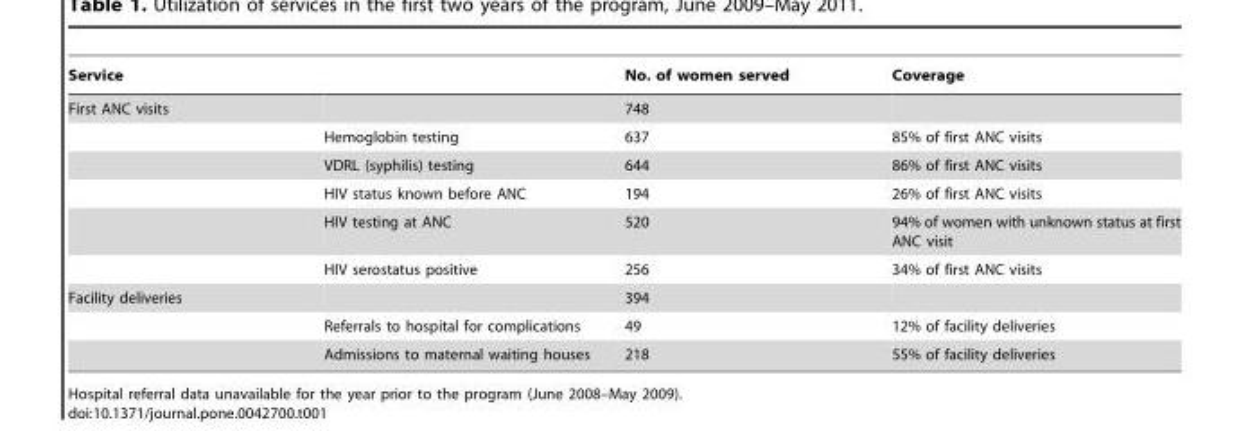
<table><thead><tr><td>Service</td><td></td><td>No. of women served</td><td>Coverage</td></tr></thead><tbody><tr><td rowspan="6">First ANC visits</td><td></td><td>748</td><td></td></tr><tr><td>Hemoglobin testing</td><td>637</td><td>85% of first ANC visits</td></tr><tr><td>VDRL (syphilis) testing</td><td>644</td><td>86% of first ANC visits</td></tr><tr><td>HIV status known before ANC</td><td>194</td><td>26% of first ANC visits</td></tr><tr><td>HIV testing at ANC</td><td>520</td><td>94% of women with unknown status at first ANC visit</td></tr><tr><td>HIV serostatus positive</td><td>256</td><td>34% of first ANC visits</td></tr><tr><td rowspan="3">Facility deliveries</td><td></td><td>394</td><td></td></tr><tr><td>Referrals to hospital for complications</td><td>49</td><td>12% of facility deliveries</td></tr><tr><td>Admissions to maternal waiting houses</td><td>218</td><td>55% of facility deliveries</td></tr></tbody></table>